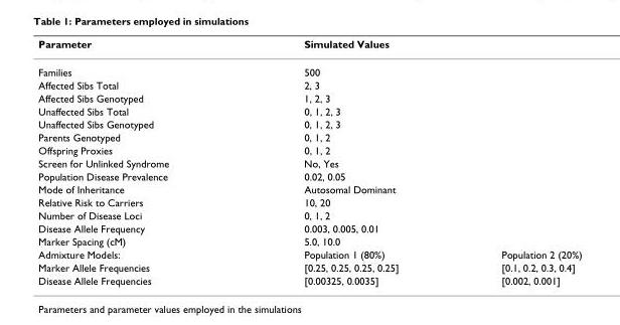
<table><thead><tr><td>Parameter</td><td>Simulated Values</td><td></td></tr></thead><tbody><tr><td>Families</td><td>500</td><td></td></tr><tr><td>Affected Sibs Total</td><td>2, 3</td><td></td></tr><tr><td>Affected Sibs Genotyped</td><td>1, 2, 3</td><td></td></tr><tr><td>Unaffected Sibs Total</td><td>0, 1, 2, 3</td><td></td></tr><tr><td>Unaffected Sibs Genotyped</td><td>0, 1, 2, 3</td><td></td></tr><tr><td>Parents Genotyped</td><td>0, 1, 2</td><td></td></tr><tr><td>Offspring Proxies</td><td>0, 1, 2</td><td></td></tr><tr><td>Screen for Unlinked Syndrome</td><td>No, Yes</td><td></td></tr><tr><td>Population Disease Prevalence</td><td>0.02, 0.05</td><td></td></tr><tr><td>Mode of Inheritance</td><td>Autosomal Dominant</td><td></td></tr><tr><td>Relative Risk to Carriers</td><td>10, 20</td><td></td></tr><tr><td>Number of Disease Loci</td><td>0, 1, 2</td><td></td></tr><tr><td>Disease Allele Frequency</td><td>0.003, 0.005, 0.01</td><td></td></tr><tr><td>Marker Spacing (cM)</td><td>5.0, 10.0</td><td></td></tr><tr><td>Admixture Models:</td><td>Population 1 (80%)</td><td>Population 2 (20%)</td></tr><tr><td>Marker Allele Frequencies</td><td>[0.25, 0.25, 0.25, 0.25]</td><td>[0.1, 0.2, 0.3, 0.4]</td></tr><tr><td>Disease Allele Frequencies</td><td>[0.00325, 0.0035]</td><td>[0.002, 0.001]</td></tr></tbody></table>